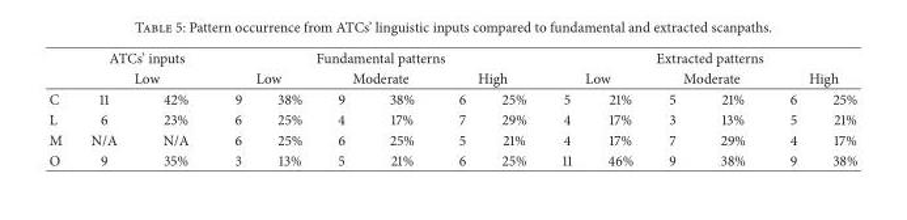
<table><thead><tr><td rowspan="3">C</td><td rowspan="2" colspan="2">ATCs’ inputs Low</td><td colspan="6">Fundamental patterns</td><td colspan="6">Extracted patterns</td></tr><tr><td colspan="2">Low</td><td colspan="2">Moderate</td><td colspan="2">High</td><td colspan="2">Low</td><td colspan="2">Moderate</td><td colspan="2">High</td></tr><tr><td>11</td><td>42%</td><td>9</td><td>38%</td><td>9</td><td>38%</td><td>6</td><td>25%</td><td>5</td><td>21%</td><td>5</td><td>21%</td><td>6</td><td>25%</td></tr></thead><tbody><tr><td>L</td><td>6</td><td>23%</td><td>6</td><td>25%</td><td>4</td><td>17%</td><td>7</td><td>29%</td><td>4</td><td>17%</td><td>3</td><td>13%</td><td>5</td><td>21%</td></tr><tr><td>M</td><td>N/A</td><td>N/A</td><td>6</td><td>25%</td><td>6</td><td>25%</td><td>5</td><td>21%</td><td>4</td><td>17%</td><td>7</td><td>29%</td><td>4</td><td>17%</td></tr><tr><td>O</td><td>9</td><td>35%</td><td>3</td><td>13%</td><td>5</td><td>21%</td><td>6</td><td>25%</td><td>11</td><td>46%</td><td>9</td><td>38%</td><td>9</td><td>38%</td></tr></tbody></table>